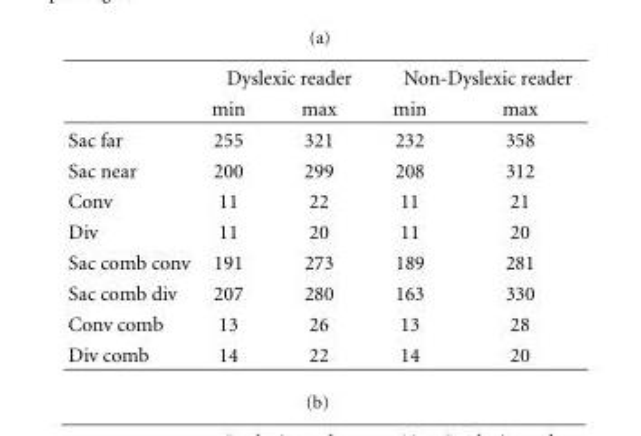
<table><thead><tr><td rowspan="2"></td><td colspan="2">Dyslexic reader</td><td colspan="2">Non-Dyslexic reader</td></tr><tr><td>min</td><td>max</td><td>min</td><td>max</td></tr></thead><tbody><tr><td>Sac far</td><td>255</td><td>321</td><td>232</td><td>358</td></tr><tr><td>Sac near</td><td>200</td><td>299</td><td>208</td><td>312</td></tr><tr><td>Conv</td><td>11</td><td>22</td><td>11</td><td>21</td></tr><tr><td>Div</td><td>11</td><td>20</td><td>11</td><td>20</td></tr><tr><td>Sac comb conv</td><td>191</td><td>273</td><td>189</td><td>281</td></tr><tr><td>Sac comb div</td><td>207</td><td>280</td><td>163</td><td>330</td></tr><tr><td>Conv comb</td><td>13</td><td>26</td><td>13</td><td>28</td></tr><tr><td>Div comb</td><td>14</td><td>22</td><td>14</td><td>20</td></tr></tbody></table>